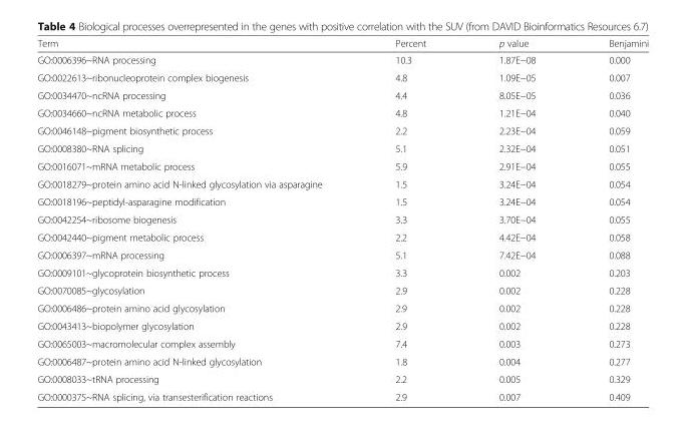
<table><thead><tr><td>Term</td><td>Percent</td><td>p value</td><td>Benjamini</td></tr></thead><tbody><tr><td>GO:0006396~RNA processing</td><td>10.3</td><td>1.87E−08</td><td>0.000</td></tr><tr><td>GO:0022613~ribonucleoprotein complex biogenesis</td><td>4.8</td><td>1.09E−05</td><td>0.007</td></tr><tr><td>GO:0034470~ncRNA processing</td><td>4.4</td><td>8.05E−05</td><td>0.036</td></tr><tr><td>GO:0034660~ncRNA metabolic process</td><td>4.8</td><td>1.21E−04</td><td>0.040</td></tr><tr><td>GO:0046148~pigment biosynthetic process</td><td>2.2</td><td>2.23E−04</td><td>0.059</td></tr><tr><td>GO:0008380~RNA splicing</td><td>5.1</td><td>2.32E−04</td><td>0.051</td></tr><tr><td>GO:0016071~mRNA metabolic process</td><td>5.9</td><td>2.91E−04</td><td>0.055</td></tr><tr><td>GO:0018279~protein amino acid N-linked glycosylation via asparagine</td><td>1.5</td><td>3.24E−04</td><td>0.054</td></tr><tr><td>GO:0018196~peptidyl-asparagine modification</td><td>1.5</td><td>3.24E−04</td><td>0.054</td></tr><tr><td>GO:0042254~ribosome biogenesis</td><td>3.3</td><td>3.70E−04</td><td>0.055</td></tr><tr><td>GO:0042440~pigment metabolic process</td><td>2.2</td><td>4.42E−04</td><td>0.058</td></tr><tr><td>GO:0006397~mRNA processing</td><td>5.1</td><td>7.42E−04</td><td>0.088</td></tr><tr><td>GO:0009101~glycoprotein biosynthetic process</td><td>3.3</td><td>0.002</td><td>0.203</td></tr><tr><td>GO:0070085~glycosylation</td><td>2.9</td><td>0.002</td><td>0.228</td></tr><tr><td>GO:0006486~protein amino acid glycosylation</td><td>2.9</td><td>0.002</td><td>0.228</td></tr><tr><td>GO:0043413~biopolymer glycosylation</td><td>2.9</td><td>0.002</td><td>0.228</td></tr><tr><td>GO:0065003~macromolecular complex assembly</td><td>7.4</td><td>0.003</td><td>0.273</td></tr><tr><td>GO:0006487~protein amino acid N-linked glycosylation</td><td>1.8</td><td>0.004</td><td>0.277</td></tr><tr><td>GO:0008033~tRNA processing</td><td>2.2</td><td>0.005</td><td>0.329</td></tr><tr><td>GO:0000375~RNA splicing, via transesterification reactions</td><td>2.9</td><td>0.007</td><td>0.409</td></tr></tbody></table>